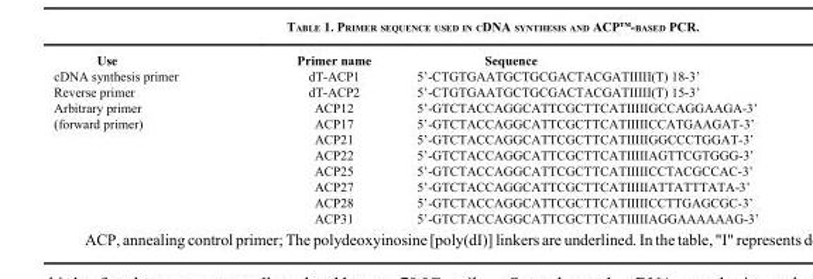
<table><thead><tr><td>Use</td><td>Primer name</td><td>Sequence</td></tr></thead><tbody><tr><td>cDNA synthesis primer</td><td>dT-ACP1</td><td>5’-CTGTGAATGCTGCGACTACGATIIIII(T) 18-3’</td></tr><tr><td>Reverse primer</td><td>dT-ACP2</td><td>5’-CTGTGAATGCTGCGACTACGATIIIII(T) 15-3’</td></tr><tr><td>Arbitrary primer</td><td>ACP12</td><td>5’-GTCTACCAGGCATTCGCTTCATIIIIIGCCAGGAAGA-3’</td></tr><tr><td rowspan="7">(forward primer)</td><td>ACP17</td><td>5’-GTCTACCAGGCATTCGCTTCATIIIIICCATGAAGAT-3’</td></tr><tr><td>ACP21</td><td>5’-GTCTACCAGGCATTCGCTTCATIIIIIGGCCCTGGAT-3’</td></tr><tr><td>ACP22</td><td>5’-GTCTACCAGGCATTCGCTTCATIIIIIAGTTCGTGGG-3’</td></tr><tr><td>ACP25</td><td>5’-GTCTACCAGGCATTCGCTTCATIIIIICCTACGCCAC-3’</td></tr><tr><td>ACP27</td><td>5’-GTCTACCAGGCATTCGCTTCATIIIIIATTATTTATA-3’</td></tr><tr><td>ACP28</td><td>5’-GTCTACCAGGCATTCGCTTCATIIIIICCTTGAGCGC-3’</td></tr><tr><td>ACP31</td><td>5’-GTCTACCAGGCATTCGCTTCATIIIIIAGGAAAAAAG-3’</td></tr></tbody></table>